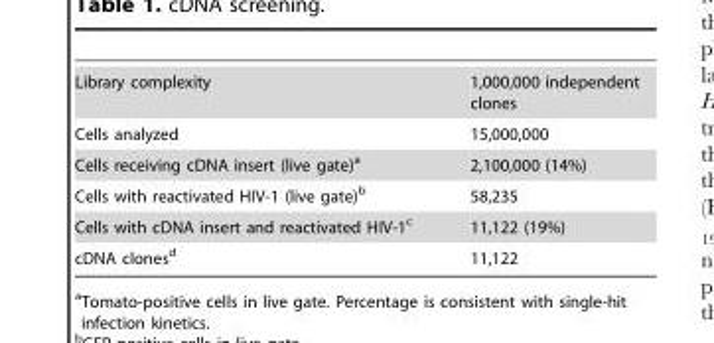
<table><tbody><tr><td>Library complexity</td><td>1,000,000 independent clones</td></tr><tr><td>Cells analyzed</td><td>15,000,000</td></tr><tr><td>Cells receiving cDNA insert (live gate)<sup>a</sup></td><td>2,100,000 (14%)</td></tr><tr><td>Cells with reactivated HIV-1 (live gate)<sup>b</sup></td><td>58,235</td></tr><tr><td>Cells with cDNA insert and reactivated HIV-1<sup>c</sup></td><td>11,122 (19%)</td></tr><tr><td>cDNA clones<sup>d</sup></td><td>11,122</td></tr></tbody></table>